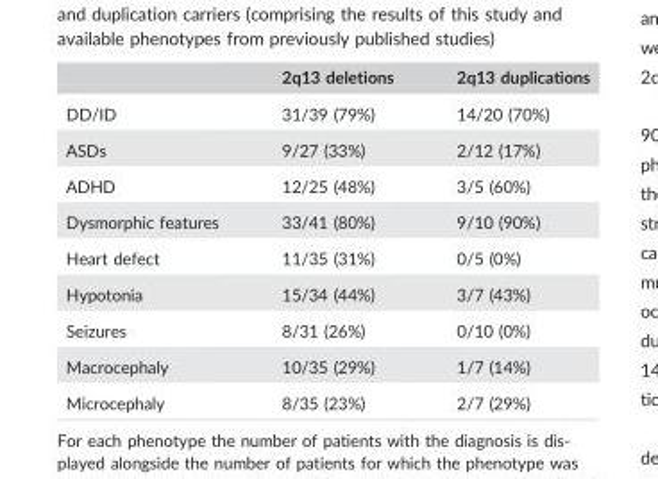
<table><thead><tr><td></td><td>2q13 deletions</td><td>2q13 duplications</td></tr></thead><tbody><tr><td>DD/ID</td><td>31/39 (79%)</td><td>14/20 (70%)</td></tr><tr><td>ASDs</td><td>9/27 (33%)</td><td>2/12 (17%)</td></tr><tr><td>ADHD</td><td>12/25 (48%)</td><td>3/5 (60%)</td></tr><tr><td>Dysmorphic features</td><td>33/41 (80%)</td><td>9/10 (90%)</td></tr><tr><td>Heart defect</td><td>11/35 (31%)</td><td>0/5 (0%)</td></tr><tr><td>Hypotonia</td><td>15/34 (44%)</td><td>3/7 (43%)</td></tr><tr><td>Seizures</td><td>8/31 (26%)</td><td>0/10 (0%)</td></tr><tr><td>Macrocephaly</td><td>10/35 (29%)</td><td>1/7 (14%)</td></tr><tr><td>Microcephaly</td><td>8/35 (23%)</td><td>2/7 (29%)</td></tr></tbody></table>